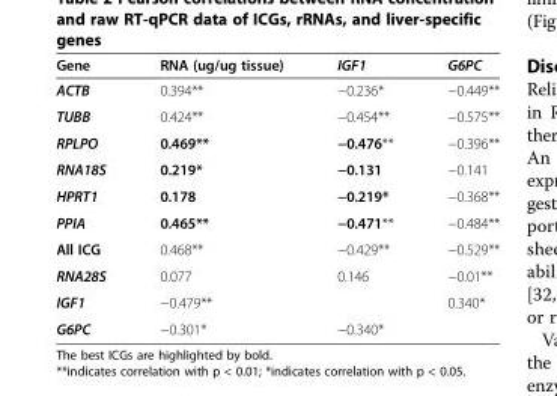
<table><thead><tr><td>Gene</td><td>RNA (ug/ug tissue)</td><td>IGF1</td><td>G6PC</td></tr></thead><tbody><tr><td>ACTB</td><td>0.394**</td><td>−0.236*</td><td>−0.449**</td></tr><tr><td>TUBB</td><td>0.424**</td><td>−0.454**</td><td>−0.575**</td></tr><tr><td>RPLPO</td><td>0.469**</td><td>−0.476**</td><td>−0.396**</td></tr><tr><td>RNA18S</td><td>0.219*</td><td>−0.131</td><td>−0.141</td></tr><tr><td>HPRT1</td><td>0.178</td><td>−0.219*</td><td>−0.368**</td></tr><tr><td>PPIA</td><td>0.465**</td><td>−0.471**</td><td>−0.484**</td></tr><tr><td>All ICG</td><td>0.468**</td><td>−0.429**</td><td>−0.529**</td></tr><tr><td>RNA28S</td><td>0.077</td><td>0.146</td><td>−0.01**</td></tr><tr><td>IGF1</td><td>−0.479**</td><td></td><td>0.340*</td></tr><tr><td>G6PC</td><td>−0.301*</td><td>−0.340*</td><td></td></tr></tbody></table>